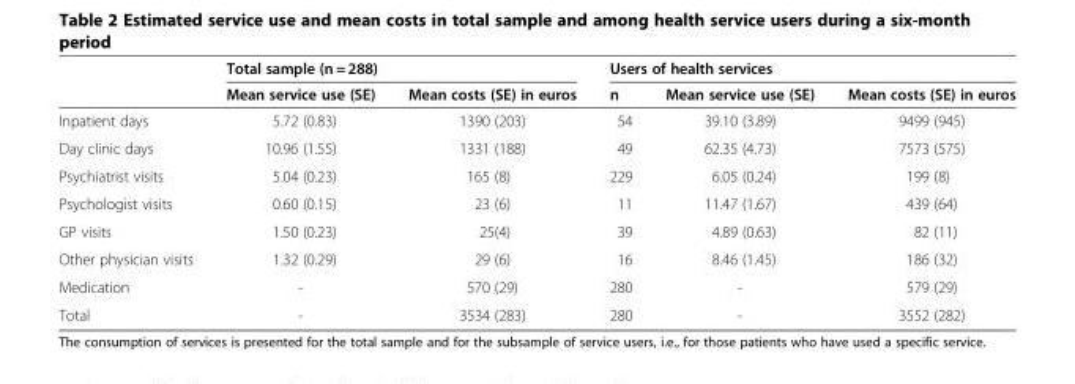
<table><thead><tr><td rowspan="2"></td><td colspan="2">Total sample (n = 288)</td><td colspan="3">Users of health services</td></tr><tr><td>Mean service use (SE)</td><td>Mean costs (SE) in euros</td><td>n</td><td>Mean service use (SE)</td><td>Mean costs (SE) in euros</td></tr></thead><tbody><tr><td>Inpatient days</td><td>5.72 (0.83)</td><td>1390 (203)</td><td>54</td><td>39.10 (3.89)</td><td>9499 (945)</td></tr><tr><td>Day clinic days</td><td>10.96 (1.55)</td><td>1331 (188)</td><td>49</td><td>62.35 (4.73)</td><td>7573 (575)</td></tr><tr><td>Psychiatrist visits</td><td>5.04 (0.23)</td><td>165 (8)</td><td>229</td><td>6.05 (0.24)</td><td>199 (8)</td></tr><tr><td>Psychologist visits</td><td>0.60 (0.15)</td><td>23 (6)</td><td>11</td><td>11.47 (1.67)</td><td>439 (64)</td></tr><tr><td>GP visits</td><td>1.50 (0.23)</td><td>25(4)</td><td>39</td><td>4.89 (0.63)</td><td>82 (11)</td></tr><tr><td>Other physician visits</td><td>1.32 (0.29)</td><td>29 (6)</td><td>16</td><td>8.46 (1.45)</td><td>186 (32)</td></tr><tr><td>Medication</td><td>-</td><td>570 (29)</td><td>280</td><td>-</td><td>579 (29)</td></tr><tr><td>Total</td><td>-</td><td>3534 (283)</td><td>280</td><td>-</td><td>3552 (282)</td></tr></tbody></table>